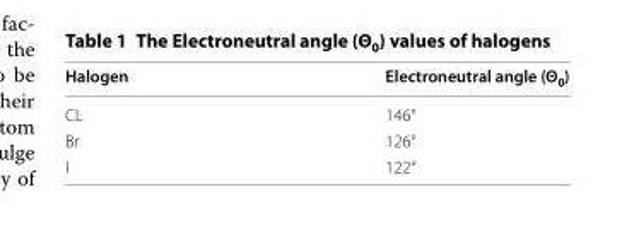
<table><thead><tr><td>Halogen</td><td>Electroneutral angle (Θ<sub>0</sub>)</td></tr></thead><tbody><tr><td>CL</td><td>146°</td></tr><tr><td>Br</td><td>126°</td></tr><tr><td>I</td><td>122°</td></tr></tbody></table>